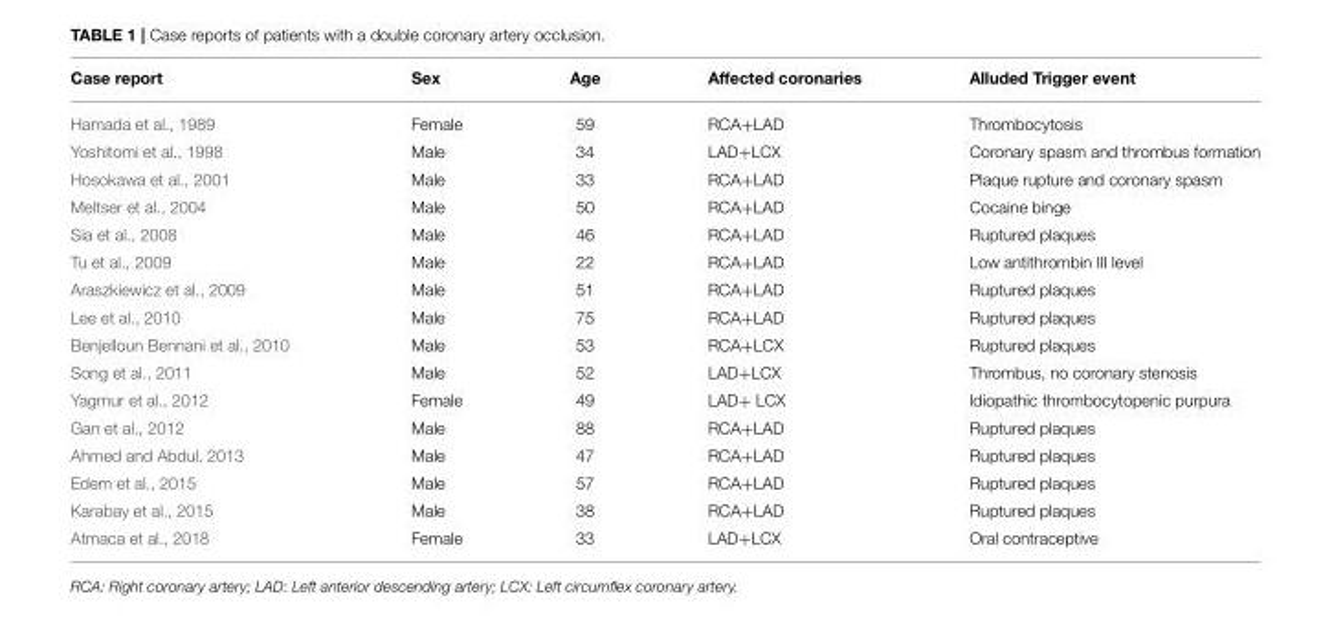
<table><thead><tr><td>Case report</td><td>Sex</td><td>Age</td><td>Affected coronaries</td><td>Alluded Trigger event</td></tr></thead><tbody><tr><td>Hamada et al., 1989</td><td>Female</td><td>59</td><td>RCA+LAD</td><td>Thrombocytosis</td></tr><tr><td>Yoshitomi et al., 1998</td><td>Male</td><td>34</td><td>LAD+LCX</td><td>Coronary spasm and thrombus formation</td></tr><tr><td>Hosokawa et al., 2001</td><td>Male</td><td>33</td><td>RCA+LAD</td><td>Plaque rupture and coronary spasm</td></tr><tr><td>Meltser et al., 2004</td><td>Male</td><td>50</td><td>RCA+LAD</td><td>Cocaine binge</td></tr><tr><td>Sia et al., 2008</td><td>Male</td><td>46</td><td>RCA+LAD</td><td>Ruptured plaques</td></tr><tr><td>Tu et al., 2009</td><td>Male</td><td>22</td><td>RCA+LAD</td><td>Low antithrombin III level</td></tr><tr><td>Araszkiewicz et al., 2009</td><td>Male</td><td>51</td><td>RCA+LAD</td><td>Ruptured plaques</td></tr><tr><td>Lee et al., 2010</td><td>Male</td><td>75</td><td>RCA+LAD</td><td>Ruptured plaques</td></tr><tr><td>Benjelloun Bennani et al., 2010</td><td>Male</td><td>53</td><td>RCA+LCX</td><td>Ruptured plaques</td></tr><tr><td>Song et al., 2011</td><td>Male</td><td>52</td><td>LAD+LCX</td><td>Thrombus, no coronary stenosis</td></tr><tr><td>Yagmur et al., 2012</td><td>Female</td><td>49</td><td>LAD+ LCX</td><td>Idiopathic thrombocytopenic purpura</td></tr><tr><td>Gan et al., 2012</td><td>Male</td><td>88</td><td>RCA+LAD</td><td>Ruptured plaques</td></tr><tr><td>Ahmed and Abdul, 2013</td><td>Male</td><td>47</td><td>RCA+LAD</td><td>Ruptured plaques</td></tr><tr><td>Edem et al., 2015</td><td>Male</td><td>57</td><td>RCA+LAD</td><td>Ruptured plaques</td></tr><tr><td>Karabay et al., 2015</td><td>Male</td><td>38</td><td>RCA+LAD</td><td>Ruptured plaques</td></tr><tr><td>Atmaca et al., 2018</td><td>Female</td><td>33</td><td>LAD+LCX</td><td>Oral contraceptive</td></tr></tbody></table>